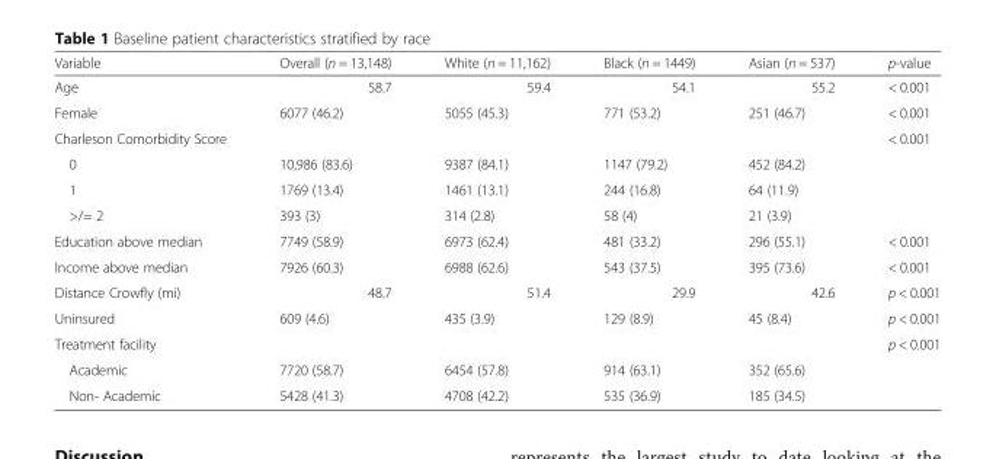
<table><thead><tr><td>Variable</td><td>Overall (n = 13,148)</td><td>White (n = 11,162)</td><td>Black (n = 1449)</td><td>Asian (n = 537)</td><td>p-value</td></tr></thead><tbody><tr><td>Age</td><td>58.7</td><td>59.4</td><td>54.1</td><td>55.2</td><td>&lt; 0.001</td></tr><tr><td>Female</td><td>6077 (46.2)</td><td>5055 (45.3)</td><td>771 (53.2)</td><td>251 (46.7)</td><td>&lt; 0.001</td></tr><tr><td>Charleson Comorbidity Score</td><td></td><td></td><td></td><td></td><td>&lt; 0.001</td></tr><tr><td>0</td><td>10,986 (83.6)</td><td>9387 (84.1)</td><td>1147 (79.2)</td><td>452 (84.2)</td><td></td></tr><tr><td>1</td><td>1769 (13.4)</td><td>1461 (13.1)</td><td>244 (16.8)</td><td>64 (11.9)</td><td></td></tr><tr><td>&gt;/= 2</td><td>393 (3)</td><td>314 (2.8)</td><td>58 (4)</td><td>21 (3.9)</td><td></td></tr><tr><td>Education above median</td><td>7749 (58.9)</td><td>6973 (62.4)</td><td>481 (33.2)</td><td>296 (55.1)</td><td>&lt; 0.001</td></tr><tr><td>Income above median</td><td>7926 (60.3)</td><td>6988 (62.6)</td><td>543 (37.5)</td><td>395 (73.6)</td><td>&lt; 0.001</td></tr><tr><td>Distance Crowfly (mi)</td><td>48.7</td><td>51.4</td><td>29.9</td><td>42.6</td><td>p &lt; 0.001</td></tr><tr><td>Uninsured</td><td>609 (4.6)</td><td>435 (3.9)</td><td>129 (8.9)</td><td>45 (8.4)</td><td>p &lt; 0.001</td></tr><tr><td>Treatment facility</td><td></td><td></td><td></td><td></td><td>p &lt; 0.001</td></tr><tr><td>Academic</td><td>7720 (58.7)</td><td>6454 (57.8)</td><td>914 (63.1)</td><td>352 (65.6)</td><td></td></tr><tr><td>Non- Academic</td><td>5428 (41.3)</td><td>4708 (42.2)</td><td>535 (36.9)</td><td>185 (34.5)</td><td></td></tr></tbody></table>